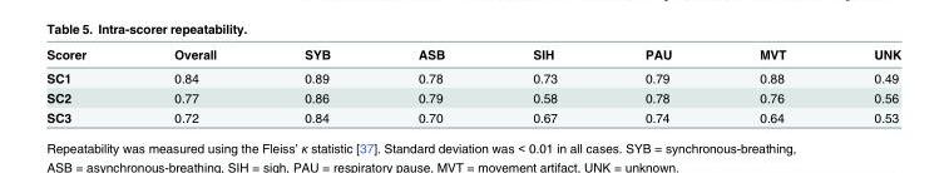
<table><thead><tr><td>Scorer</td><td>Overall</td><td>SYB</td><td>ASB</td><td>SIH</td><td>PAU</td><td>MVT</td><td>UNK</td></tr></thead><tbody><tr><td>SC1</td><td>0.84</td><td>0.89</td><td>0.78</td><td>0.73</td><td>0.79</td><td>0.88</td><td>0.49</td></tr><tr><td>SC2</td><td>0.77</td><td>0.86</td><td>0.79</td><td>0.58</td><td>0.78</td><td>0.76</td><td>0.56</td></tr><tr><td>SC3</td><td>0.72</td><td>0.84</td><td>0.70</td><td>0.67</td><td>0.74</td><td>0.64</td><td>0.53</td></tr></tbody></table>